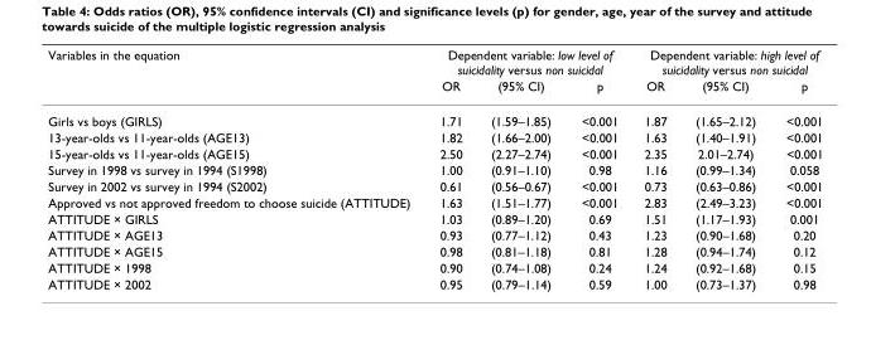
<table><thead><tr><td rowspan="2">Variables in the equation</td><td colspan="3">Dependent variable: low level of suicidality versus non suicidal</td><td colspan="3">Dependent variable: high level of suicidality versus non suicidal</td></tr><tr><td>OR</td><td>(95% CI)</td><td>p</td><td>OR</td><td>(95% CI)</td><td>p</td></tr></thead><tbody><tr><td>Girls vs boys (GIRLS)</td><td>1.71</td><td>(1.59–1.85)</td><td>&lt;0.001</td><td>1.87</td><td>(1.65–2.12)</td><td>&lt;0.001</td></tr><tr><td>13-year-olds vs 11-year-olds (AGE13)</td><td>1.82</td><td>(1.66–2.00)</td><td>&lt;0.001</td><td>1.63</td><td>(1.40–1.91)</td><td>&lt;0.001</td></tr><tr><td>15-year-olds vs 11-year-olds (AGE15)</td><td>2.50</td><td>(2.27–2.74)</td><td>&lt;0.001</td><td>2.35</td><td>2.01–2.74)</td><td>&lt;0.001</td></tr><tr><td>Survey in 1998 vs survey in 1994 (S1998)</td><td>1.00</td><td>(0.91–1.10)</td><td>0.98</td><td>1.16</td><td>(0.99–1.34)</td><td>0.058</td></tr><tr><td>Survey in 2002 vs survey in 1994 (S2002)</td><td>0.61</td><td>(0.56–0.67)</td><td>&lt;0.001</td><td>0.73</td><td>(0.63–0.86)</td><td>&lt;0.001</td></tr><tr><td>Approved vs not approved freedom to choose suicide (ATTITUDE)</td><td>1.63</td><td>(1.51–1.77)</td><td>&lt;0.001</td><td>2.83</td><td>(2.49–3.23)</td><td>&lt;0.001</td></tr><tr><td>ATTITUDE × GIRLS</td><td>1.03</td><td>(0.89–1.20)</td><td>0.69</td><td>1.51</td><td>(1.17–1.93)</td><td>0.001</td></tr><tr><td>ATTITUDE × AGE13</td><td>0.93</td><td>(0.77–1.12)</td><td>0.43</td><td>1.23</td><td>(0.90–1.68)</td><td>0.20</td></tr><tr><td>ATTITUDE × AGE15</td><td>0.98</td><td>(0.81–1.18)</td><td>0.81</td><td>1.28</td><td>(0.94–1.74)</td><td>0.12</td></tr><tr><td>ATTITUDE × 1998</td><td>0.90</td><td>(0.74–1.08)</td><td>0.24</td><td>1.24</td><td>(0.92–1.68)</td><td>0.15</td></tr><tr><td>ATTITUDE × 2002</td><td>0.95</td><td>(0.79–1.14)</td><td>0.59</td><td>1.00</td><td>(0.73–1.37)</td><td>0.98</td></tr></tbody></table>